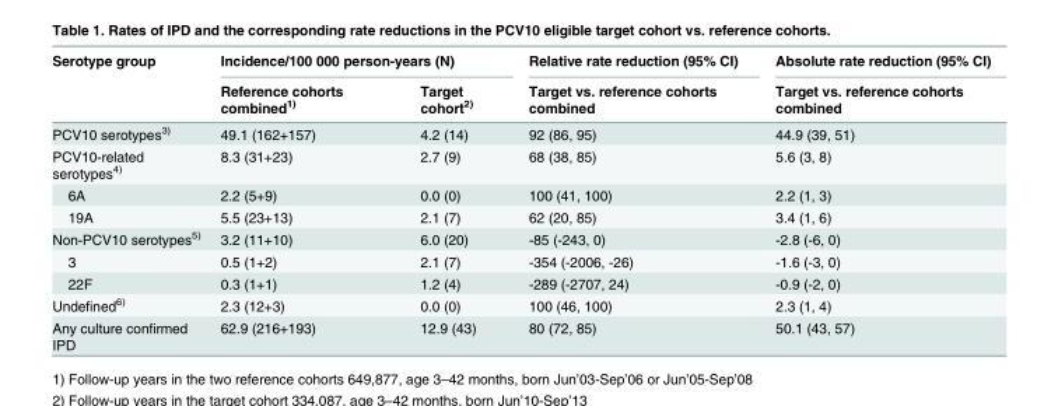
<table><thead><tr><td rowspan="2">Serotype group</td><td colspan="2">Incidence/100 000 person-years (N)</td><td rowspan="2">Relative rate reduction (95% CI) Target vs. reference cohorts combined</td><td rowspan="2">Absolute rate reduction (95% CI) Target vs. reference cohorts combined</td></tr><tr><td>Reference cohorts combined<sup>1)</sup></td><td>Target cohort<sup>2)</sup></td></tr></thead><tbody><tr><td>PCV10 serotypes<sup>3)</sup></td><td>49.1 (162+157)</td><td>4.2 (14)</td><td>92 (86, 95)</td><td>44.9 (39, 51)</td></tr><tr><td>PCV10-related serotypes<sup>4)</sup></td><td>8.3 (31+23)</td><td>2.7 (9)</td><td>68 (38, 85)</td><td>5.6 (3, 8)</td></tr><tr><td>6A</td><td>2.2 (5+9)</td><td>0.0 (0)</td><td>100 (41, 100)</td><td>2.2 (1, 3)</td></tr><tr><td>19A</td><td>5.5 (23+13)</td><td>2.1 (7)</td><td>62 (20, 85)</td><td>3.4 (1, 6)</td></tr><tr><td>Non-PCV10 serotypes<sup>5)</sup></td><td>3.2 (11+10)</td><td>6.0 (20)</td><td>-85 (-243, 0)</td><td>-2.8 (-6, 0)</td></tr><tr><td>3</td><td>0.5 (1+2)</td><td>2.1 (7)</td><td>-354 (-2006, -26)</td><td>-1.6 (-3, 0)</td></tr><tr><td>22F</td><td>0.3 (1+1)</td><td>1.2 (4)</td><td>-289 (-2707, 24)</td><td>-0.9 (-2, 0)</td></tr><tr><td>Undefined<sup>6)</sup></td><td>2.3 (12+3)</td><td>0.0 (0)</td><td>100 (46, 100)</td><td>2.3 (1, 4)</td></tr><tr><td>Any culture confirmed IPD</td><td>62.9 (216+193)</td><td>12.9 (43)</td><td>80 (72, 85)</td><td>50.1 (43, 57)</td></tr></tbody></table>